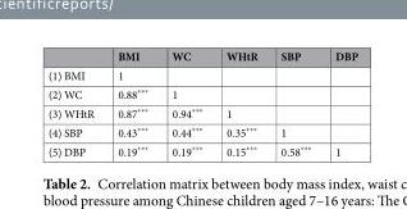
<table><thead><tr><td></td><td>BMI</td><td>WC</td><td>WHtR</td><td>SBP</td><td>DBP</td></tr></thead><tbody><tr><td>(1) BMI</td><td>1</td><td></td><td></td><td></td><td></td></tr><tr><td>(2) WC</td><td>0.88***</td><td>1</td><td></td><td></td><td></td></tr><tr><td>(3) WHtR</td><td>0.87***</td><td>0.94***</td><td>1</td><td></td><td></td></tr><tr><td>(4) SBP</td><td>0.43***</td><td>0.44***</td><td>0.35***</td><td>1</td><td></td></tr><tr><td>(5) DBP</td><td>0.19***</td><td>0.19***</td><td>0.15***</td><td>0.58***</td><td>1</td></tr></tbody></table>